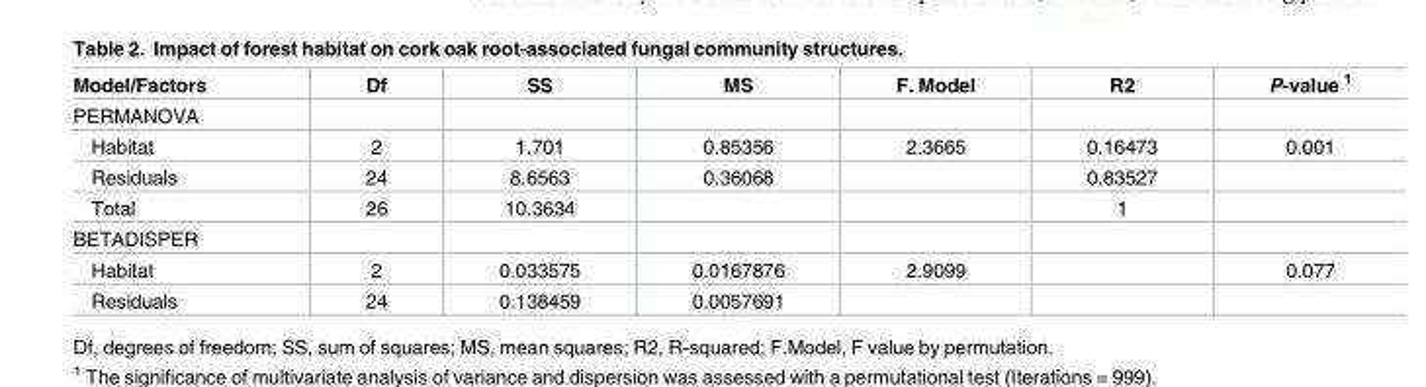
<table><thead><tr><td>Model/Factors</td><td>Df</td><td>SS</td><td>MS</td><td>F. Model</td><td>R2</td><td>P-value <sup>1</sup></td></tr></thead><tbody><tr><td colspan="7">PERMANOVA</td></tr><tr><td>Habitat</td><td>2</td><td>1.701</td><td>0.85356</td><td>2.3665</td><td>0.16473</td><td>0.001</td></tr><tr><td>Residuals</td><td>24</td><td>8.6563</td><td>0.36068</td><td></td><td>0.83527</td><td></td></tr><tr><td>Total</td><td>26</td><td>10.3634</td><td></td><td></td><td>1</td><td></td></tr><tr><td colspan="7">BETADISPER</td></tr><tr><td>Habitat</td><td>2</td><td>0.033575</td><td>0.0167876</td><td>2.9099</td><td></td><td>0.077</td></tr><tr><td>Residuals</td><td>24</td><td>0.138459</td><td>0.0057691</td><td></td><td></td><td></td></tr></tbody></table>